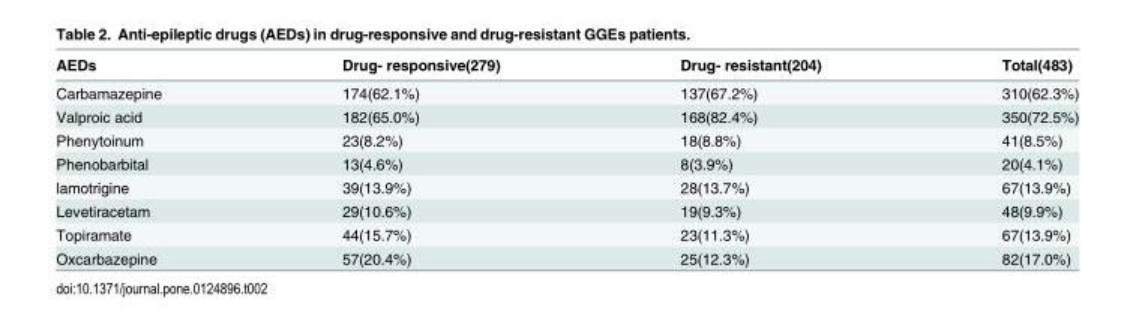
<table><thead><tr><td>AEDs</td><td>Drug- responsive(279)</td><td>Drug- resistant(204)</td><td>Total(483)</td></tr></thead><tbody><tr><td>Carbamazepine</td><td>174(62.1%)</td><td>137(67.2%)</td><td>310(62.3%)</td></tr><tr><td>Valproic acid</td><td>182(65.0%)</td><td>168(82.4%)</td><td>350(72.5%)</td></tr><tr><td>Phenytoinum</td><td>23(8.2%)</td><td>18(8.8%)</td><td>41(8.5%)</td></tr><tr><td>Phenobarbital</td><td>13(4.6%)</td><td>8(3.9%)</td><td>20(4.1%)</td></tr><tr><td>lamotrigine</td><td>39(13.9%)</td><td>28(13.7%)</td><td>67(13.9%)</td></tr><tr><td>Levetiracetam</td><td>29(10.6%)</td><td>19(9.3%)</td><td>48(9.9%)</td></tr><tr><td>Topiramate</td><td>44(15.7%)</td><td>23(11.3%)</td><td>67(13.9%)</td></tr><tr><td>Oxcarbazepine</td><td>57(20.4%)</td><td>25(12.3%)</td><td>82(17.0%)</td></tr></tbody></table>